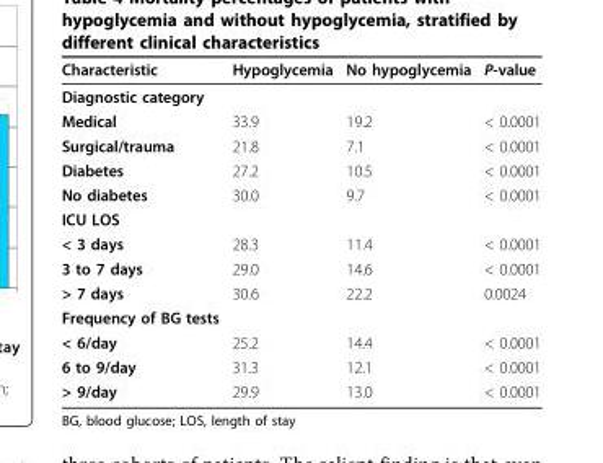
<table><thead><tr><td>Characteristic</td><td>Hypoglycemia</td><td>No hypoglycemia</td><td>P-value</td></tr></thead><tbody><tr><td colspan="4">Diagnostic category</td></tr><tr><td>Medical</td><td>33.9</td><td>19.2</td><td>&lt; 0.0001</td></tr><tr><td>Surgical/trauma</td><td>21.8</td><td>7.1</td><td>&lt; 0.0001</td></tr><tr><td>Diabetes</td><td>27.2</td><td>10.5</td><td>&lt; 0.0001</td></tr><tr><td>No diabetes</td><td>30.0</td><td>9.7</td><td>&lt; 0.0001</td></tr><tr><td colspan="4">ICU LOS</td></tr><tr><td>&lt; 3 days</td><td>28.3</td><td>11.4</td><td>&lt; 0.0001</td></tr><tr><td>3 to 7 days</td><td>29.0</td><td>14.6</td><td>&lt; 0.0001</td></tr><tr><td>&gt; 7 days</td><td>30.6</td><td>22.2</td><td>0.0024</td></tr><tr><td colspan="4">Frequency of BG tests</td></tr><tr><td>&lt; 6/day</td><td>25.2</td><td>14.4</td><td>&lt; 0.0001</td></tr><tr><td>6 to 9/day</td><td>31.3</td><td>12.1</td><td>&lt; 0.0001</td></tr><tr><td>&gt; 9/day</td><td>29.9</td><td>13.0</td><td>&lt; 0.0001</td></tr></tbody></table>